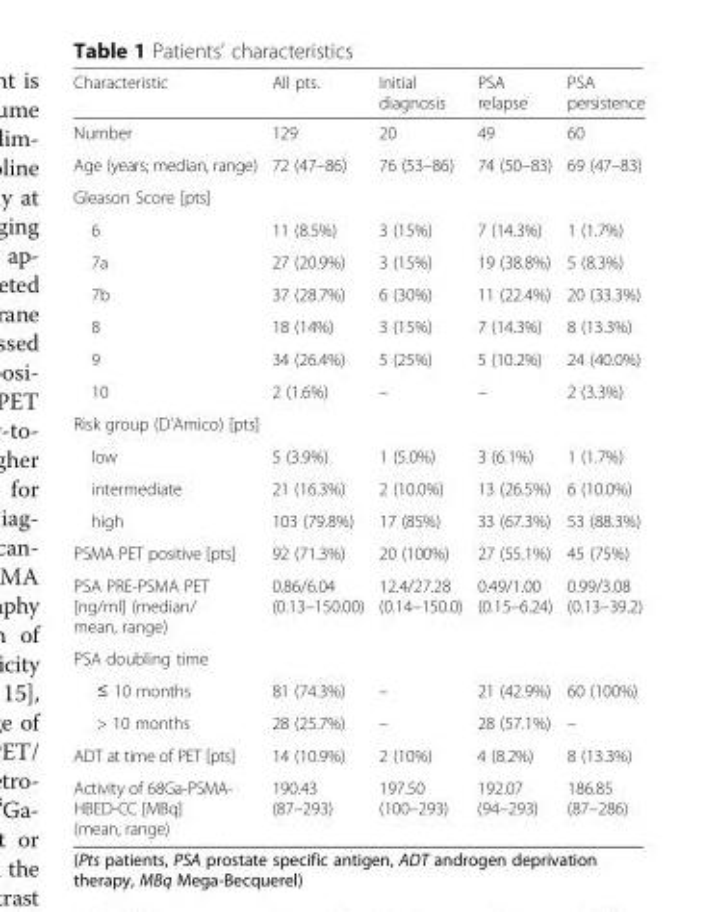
<table><thead><tr><td>Characteristic</td><td>All pts.</td><td>Initial diagnosis</td><td>PSA relapse</td><td>PSA persistence</td></tr></thead><tbody><tr><td>Number</td><td>129</td><td>20</td><td>49</td><td>60</td></tr><tr><td>Age (years; median, range)</td><td>72 (47–86)</td><td>76 (53–86)</td><td>74 (50–83)</td><td>69 (47–83)</td></tr><tr><td colspan="5">Gleason Score [pts]</td></tr><tr><td>6</td><td>11 (8.5%)</td><td>3 (15%)</td><td>7 (14.3%)</td><td>1 (1.7%)</td></tr><tr><td>7a</td><td>27 (20.9%)</td><td>3 (15%)</td><td>19 (38.8%)</td><td>5 (8.3%)</td></tr><tr><td>7b</td><td>37 (28.7%)</td><td>6 (30%)</td><td>11 (22.4%)</td><td>20 (33.3%)</td></tr><tr><td>8</td><td>18 (14%)</td><td>3 (15%)</td><td>7 (14.3%)</td><td>8 (13.3%)</td></tr><tr><td>9</td><td>34 (26.4%)</td><td>5 (25%)</td><td>5 (10.2%)</td><td>24 (40.0%)</td></tr><tr><td>10</td><td>2 (1.6%)</td><td>–</td><td>–</td><td>2 (3.3%)</td></tr><tr><td colspan="5">Risk group (D’Amico) [pts]</td></tr><tr><td>low</td><td>5 (3.9%)</td><td>1 (5.0%)</td><td>3 (6.1%)</td><td>1 (1.7%)</td></tr><tr><td>intermediate</td><td>21 (16.3%)</td><td>2 (10.0%)</td><td>13 (26.5%)</td><td>6 (10.0%)</td></tr><tr><td>high</td><td>103 (79.8%)</td><td>17 (85%)</td><td>33 (67.3%)</td><td>53 (88.3%)</td></tr><tr><td>PSMA PET positive [pts]</td><td>92 (71.3%)</td><td>20 (100%)</td><td>27 (55.1%)</td><td>45 (75%)</td></tr><tr><td>PSA PRE-PSMA PET [ng/ml] (median/ mean, range)</td><td>0.86/6.04 (0.13–150.00)</td><td>12.4/27.28 (0.14–150.0)</td><td>0.49/1.00 (0.15–6.24)</td><td>0.99/3.08 (0.13–39.2)</td></tr><tr><td colspan="5">PSA doubling time</td></tr><tr><td>≤ 10 months</td><td>81 (74.3%)</td><td>–</td><td>21 (42.9%)</td><td>60 (100%)</td></tr><tr><td>&gt; 10 months</td><td>28 (25.7%)</td><td>–</td><td>28 (57.1%)</td><td>–</td></tr><tr><td>ADT at time of PET [pts]</td><td>14 (10.9%)</td><td>2 (10%)</td><td>4 (8.2%)</td><td>8 (13.3%)</td></tr><tr><td>Activity of 68Ga-PSMA- HBED-CC [MBq] (mean, range)</td><td>190.43 (87–293)</td><td>197.50 (100–293)</td><td>192.07 (94–293)</td><td>186.85 (87–286)</td></tr></tbody></table>